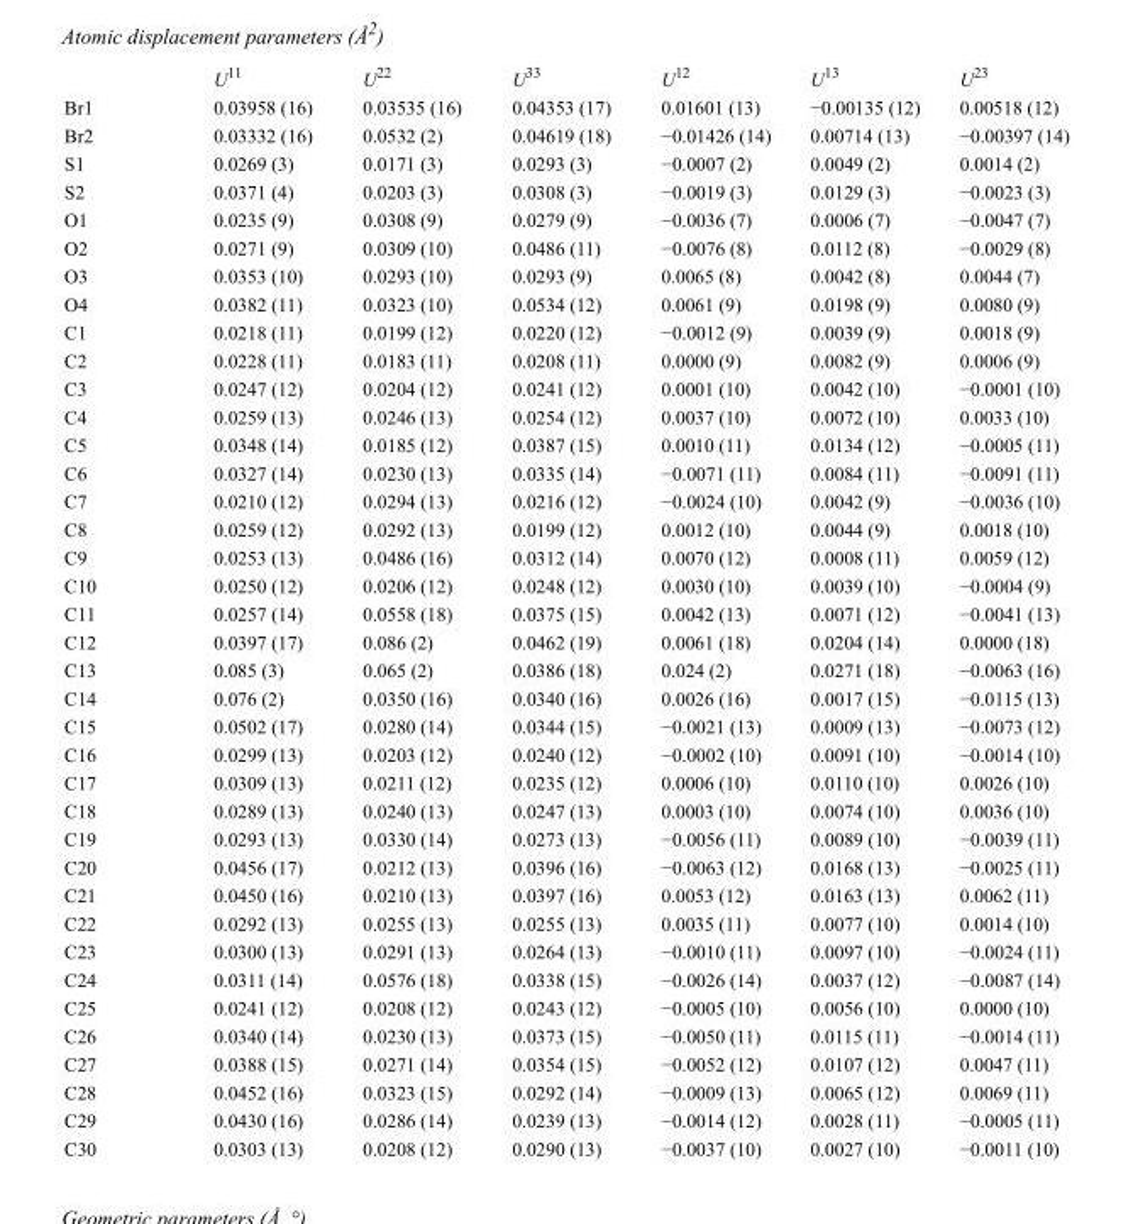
<table><thead><tr><td></td><td>U<sup>11</sup></td><td>U<sup>22</sup></td><td>U<sup>33</sup></td><td>U<sup>12</sup></td><td>U<sup>13</sup></td><td>U<sup>23</sup></td></tr></thead><tbody><tr><td>Br1</td><td>0.03958 (16)</td><td>0.03535 (16)</td><td>0.04353 (17)</td><td>0.01601 (13)</td><td>−0.00135 (12)</td><td>0.00518 (12)</td></tr><tr><td>Br2</td><td>0.03332 (16)</td><td>0.0532 (2)</td><td>0.04619 (18)</td><td>−0.01426 (14)</td><td>0.00714 (13)</td><td>−0.00397 (14)</td></tr><tr><td>S1</td><td>0.0269 (3)</td><td>0.0171 (3)</td><td>0.0293 (3)</td><td>−0.0007 (2)</td><td>0.0049 (2)</td><td>0.0014 (2)</td></tr><tr><td>S2</td><td>0.0371 (4)</td><td>0.0203 (3)</td><td>0.0308 (3)</td><td>−0.0019 (3)</td><td>0.0129 (3)</td><td>−0.0023 (3)</td></tr><tr><td>O1</td><td>0.0235 (9)</td><td>0.0308 (9)</td><td>0.0279 (9)</td><td>−0.0036 (7)</td><td>0.0006 (7)</td><td>−0.0047 (7)</td></tr><tr><td>O2</td><td>0.0271 (9)</td><td>0.0309 (10)</td><td>0.0486 (11)</td><td>−0.0076 (8)</td><td>0.0112 (8)</td><td>−0.0029 (8)</td></tr><tr><td>O3</td><td>0.0353 (10)</td><td>0.0293 (10)</td><td>0.0293 (9)</td><td>0.0065 (8)</td><td>0.0042 (8)</td><td>0.0044 (7)</td></tr><tr><td>O4</td><td>0.0382 (11)</td><td>0.0323 (10)</td><td>0.0534 (12)</td><td>0.0061 (9)</td><td>0.0198 (9)</td><td>0.0080 (9)</td></tr><tr><td>C1</td><td>0.0218 (11)</td><td>0.0199 (12)</td><td>0.0220 (12)</td><td>−0.0012 (9)</td><td>0.0039 (9)</td><td>0.0018 (9)</td></tr><tr><td>C2</td><td>0.0228 (11)</td><td>0.0183 (11)</td><td>0.0208 (11)</td><td>0.0000 (9)</td><td>0.0082 (9)</td><td>0.0006 (9)</td></tr><tr><td>C3</td><td>0.0247 (12)</td><td>0.0204 (12)</td><td>0.0241 (12)</td><td>0.0001 (10)</td><td>0.0042 (10)</td><td>−0.0001 (10)</td></tr><tr><td>C4</td><td>0.0259 (13)</td><td>0.0246 (13)</td><td>0.0254 (12)</td><td>0.0037 (10)</td><td>0.0072 (10)</td><td>0.0033 (10)</td></tr><tr><td>C5</td><td>0.0348 (14)</td><td>0.0185 (12)</td><td>0.0387 (15)</td><td>0.0010 (11)</td><td>0.0134 (12)</td><td>−0.0005 (11)</td></tr><tr><td>C6</td><td>0.0327 (14)</td><td>0.0230 (13)</td><td>0.0335 (14)</td><td>−0.0071 (11)</td><td>0.0084 (11)</td><td>−0.0091 (11)</td></tr><tr><td>C7</td><td>0.0210 (12)</td><td>0.0294 (13)</td><td>0.0216 (12)</td><td>−0.0024 (10)</td><td>0.0042 (9)</td><td>−0.0036 (10)</td></tr><tr><td>C8</td><td>0.0259 (12)</td><td>0.0292 (13)</td><td>0.0199 (12)</td><td>0.0012 (10)</td><td>0.0044 (9)</td><td>0.0018 (10)</td></tr><tr><td>C9</td><td>0.0253 (13)</td><td>0.0486 (16)</td><td>0.0312 (14)</td><td>0.0070 (12)</td><td>0.0008 (11)</td><td>0.0059 (12)</td></tr><tr><td>C10</td><td>0.0250 (12)</td><td>0.0206 (12)</td><td>0.0248 (12)</td><td>0.0030 (10)</td><td>0.0039 (10)</td><td>−0.0004 (9)</td></tr><tr><td>C11</td><td>0.0257 (14)</td><td>0.0558 (18)</td><td>0.0375 (15)</td><td>0.0042 (13)</td><td>0.0071 (12)</td><td>−0.0041 (13)</td></tr><tr><td>C12</td><td>0.0397 (17)</td><td>0.086 (2)</td><td>0.0462 (19)</td><td>0.0061 (18)</td><td>0.0204 (14)</td><td>0.0000 (18)</td></tr><tr><td>C13</td><td>0.085 (3)</td><td>0.065 (2)</td><td>0.0386 (18)</td><td>0.024 (2)</td><td>0.0271 (18)</td><td>−0.0063 (16)</td></tr><tr><td>C14</td><td>0.076 (2)</td><td>0.0350 (16)</td><td>0.0340 (16)</td><td>0.0026 (16)</td><td>0.0017 (15)</td><td>−0.0115 (13)</td></tr><tr><td>C15</td><td>0.0502 (17)</td><td>0.0280 (14)</td><td>0.0344 (15)</td><td>−0.0021 (13)</td><td>0.0009 (13)</td><td>−0.0073 (12)</td></tr><tr><td>C16</td><td>0.0299 (13)</td><td>0.0203 (12)</td><td>0.0240 (12)</td><td>−0.0002 (10)</td><td>0.0091 (10)</td><td>−0.0014 (10)</td></tr><tr><td>C17</td><td>0.0309 (13)</td><td>0.0211 (12)</td><td>0.0235 (12)</td><td>0.0006 (10)</td><td>0.0110 (10)</td><td>0.0026 (10)</td></tr><tr><td>C18</td><td>0.0289 (13)</td><td>0.0240 (13)</td><td>0.0247 (13)</td><td>0.0003 (10)</td><td>0.0074 (10)</td><td>0.0036 (10)</td></tr><tr><td>C19</td><td>0.0293 (13)</td><td>0.0330 (14)</td><td>0.0273 (13)</td><td>−0.0056 (11)</td><td>0.0089 (10)</td><td>−0.0039 (11)</td></tr><tr><td>C20</td><td>0.0456 (17)</td><td>0.0212 (13)</td><td>0.0396 (16)</td><td>−0.0063 (12)</td><td>0.0168 (13)</td><td>−0.0025 (11)</td></tr><tr><td>C21</td><td>0.0450 (16)</td><td>0.0210 (13)</td><td>0.0397 (16)</td><td>0.0053 (12)</td><td>0.0163 (13)</td><td>0.0062 (11)</td></tr><tr><td>C22</td><td>0.0292 (13)</td><td>0.0255 (13)</td><td>0.0255 (13)</td><td>0.0035 (11)</td><td>0.0077 (10)</td><td>0.0014 (10)</td></tr><tr><td>C23</td><td>0.0300 (13)</td><td>0.0291 (13)</td><td>0.0264 (13)</td><td>−0.0010 (11)</td><td>0.0097 (10)</td><td>−0.0024 (11)</td></tr><tr><td>C24</td><td>0.0311 (14)</td><td>0.0576 (18)</td><td>0.0338 (15)</td><td>−0.0026 (14)</td><td>0.0037 (12)</td><td>−0.0087 (14)</td></tr><tr><td>C25</td><td>0.0241 (12)</td><td>0.0208 (12)</td><td>0.0243 (12)</td><td>−0.0005 (10)</td><td>0.0056 (10)</td><td>0.0000 (10)</td></tr><tr><td>C26</td><td>0.0340 (14)</td><td>0.0230 (13)</td><td>0.0373 (15)</td><td>−0.0050 (11)</td><td>0.0115 (11)</td><td>−0.0014 (11)</td></tr><tr><td>C27</td><td>0.0388 (15)</td><td>0.0271 (14)</td><td>0.0354 (15)</td><td>−0.0052 (12)</td><td>0.0107 (12)</td><td>0.0047 (11)</td></tr><tr><td>C28</td><td>0.0452 (16)</td><td>0.0323 (15)</td><td>0.0292 (14)</td><td>−0.0009 (13)</td><td>0.0065 (12)</td><td>0.0069 (11)</td></tr><tr><td>C29</td><td>0.0430 (16)</td><td>0.0286 (14)</td><td>0.0239 (13)</td><td>−0.0014 (12)</td><td>0.0028 (11)</td><td>−0.0005 (11)</td></tr><tr><td>C30</td><td>0.0303 (13)</td><td>0.0208 (12)</td><td>0.0290 (13)</td><td>−0.0037 (10)</td><td>0.0027 (10)</td><td>−0.0011 (10)</td></tr></tbody></table>